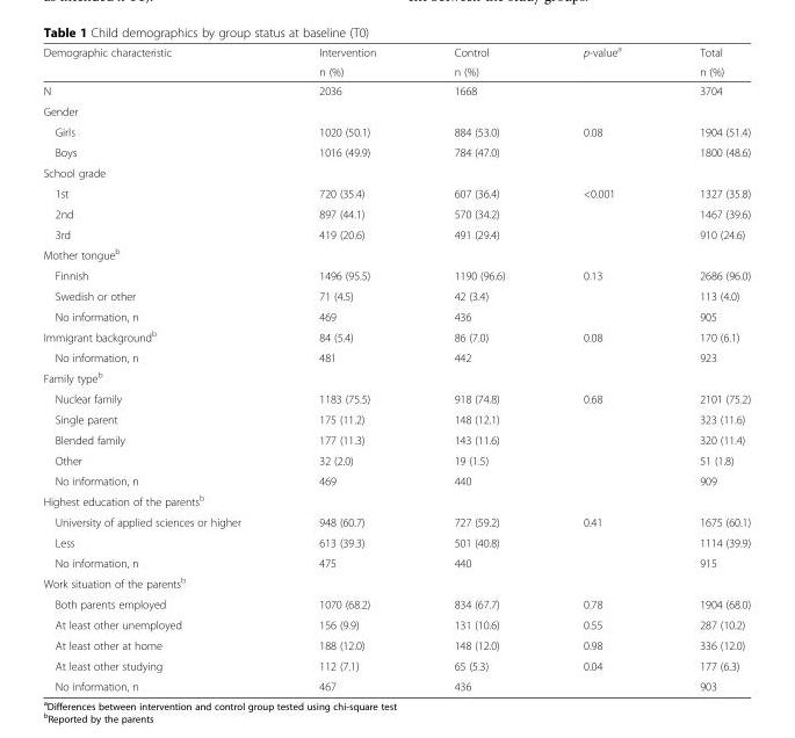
<table><thead><tr><td rowspan="2">Demographic characteristic</td><td rowspan="2">Intervention n (%)</td><td rowspan="2">Control n (%)</td><td rowspan="2">p-value<sup>a</sup></td><td rowspan="2">Total n (%)</td></tr><tr></tr></thead><tbody><tr><td>N</td><td>2036</td><td>1668</td><td></td><td>3704</td></tr><tr><td colspan="5">Gender</td></tr><tr><td>Girls</td><td>1020 (50.1)</td><td>884 (53.0)</td><td>0.08</td><td>1904 (51.4)</td></tr><tr><td>Boys</td><td>1016 (49.9)</td><td>784 (47.0)</td><td></td><td>1800 (48.6)</td></tr><tr><td colspan="5">School grade</td></tr><tr><td>1st</td><td>720 (35.4)</td><td>607 (36.4)</td><td>&lt;0.001</td><td>1327 (35.8)</td></tr><tr><td>2nd</td><td>897 (44.1)</td><td>570 (34.2)</td><td></td><td>1467 (39.6)</td></tr><tr><td>3rd</td><td>419 (20.6)</td><td>491 (29.4)</td><td></td><td>910 (24.6)</td></tr><tr><td colspan="5">Mother tongue<sup>b</sup></td></tr><tr><td>Finnish</td><td>1496 (95.5)</td><td>1190 (96.6)</td><td>0.13</td><td>2686 (96.0)</td></tr><tr><td>Swedish or other</td><td>71 (4.5)</td><td>42 (3.4)</td><td></td><td>113 (4.0)</td></tr><tr><td>No information, n</td><td>469</td><td>436</td><td></td><td>905</td></tr><tr><td>Immigrant background<sup>b</sup></td><td>84 (5.4)</td><td>86 (7.0)</td><td>0.08</td><td>170 (6.1)</td></tr><tr><td>No information, n</td><td>481</td><td>442</td><td></td><td>923</td></tr><tr><td colspan="5">Family type<sup>b</sup></td></tr><tr><td>Nuclear family</td><td>1183 (75.5)</td><td>918 (74.8)</td><td>0.68</td><td>2101 (75.2)</td></tr><tr><td>Single parent</td><td>175 (11.2)</td><td>148 (12.1)</td><td></td><td>323 (11.6)</td></tr><tr><td>Blended family</td><td>177 (11.3)</td><td>143 (11.6)</td><td></td><td>320 (11.4)</td></tr><tr><td>Other</td><td>32 (2.0)</td><td>19 (1.5)</td><td></td><td>51 (1.8)</td></tr><tr><td>No information, n</td><td>469</td><td>440</td><td></td><td>909</td></tr><tr><td colspan="5">Highest education of the parents<sup>b</sup></td></tr><tr><td>University of applied sciences or higher</td><td>948 (60.7)</td><td>727 (59.2)</td><td>0.41</td><td>1675 (60.1)</td></tr><tr><td>Less</td><td>613 (39.3)</td><td>501 (40.8)</td><td></td><td>1114 (39.9)</td></tr><tr><td>No information, n</td><td>475</td><td>440</td><td></td><td>915</td></tr><tr><td colspan="5">Work situation of the parents<sup>b</sup></td></tr><tr><td>Both parents employed</td><td>1070 (68.2)</td><td>834 (67.7)</td><td>0.78</td><td>1904 (68.0)</td></tr><tr><td>At least other unemployed</td><td>156 (9.9)</td><td>131 (10.6)</td><td>0.55</td><td>287 (10.2)</td></tr><tr><td>At least other at home</td><td>188 (12.0)</td><td>148 (12.0)</td><td>0.98</td><td>336 (12.0)</td></tr><tr><td>At least other studying</td><td>112 (7.1)</td><td>65 (5.3)</td><td>0.04</td><td>177 (6.3)</td></tr><tr><td>No information, n</td><td>467</td><td>436</td><td></td><td>903</td></tr></tbody></table>